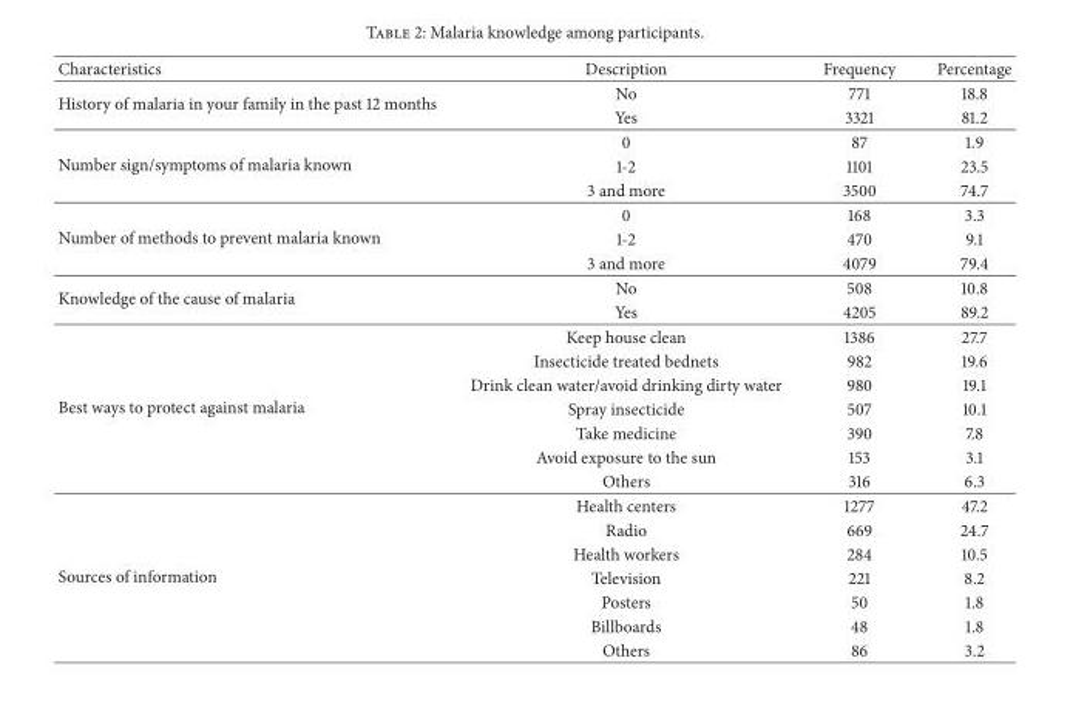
<table><thead><tr><td>Characteristics</td><td>Description</td><td>Frequency</td><td>Percentage</td></tr></thead><tbody><tr><td rowspan="2">History of malaria in your family in the past 12 months</td><td>No</td><td>771</td><td>18.8</td></tr><tr><td>Yes</td><td>3321</td><td>81.2</td></tr><tr><td rowspan="3">Number sign/symptoms of malaria known</td><td>0</td><td>87</td><td>1.9</td></tr><tr><td>1-2</td><td>1101</td><td>23.5</td></tr><tr><td>3 and more</td><td>3500</td><td>74.7</td></tr><tr><td rowspan="3">Number of methods to prevent malaria known</td><td>0</td><td>168</td><td>3.3</td></tr><tr><td>1-2</td><td>470</td><td>9.1</td></tr><tr><td>3 and more</td><td>4079</td><td>79.4</td></tr><tr><td rowspan="2">Knowledge of the cause of malaria</td><td>No</td><td>508</td><td>10.8</td></tr><tr><td>Yes</td><td>4205</td><td>89.2</td></tr><tr><td rowspan="7">Best ways to protect against malaria</td><td>Keep house clean</td><td>1386</td><td>27.7</td></tr><tr><td>Insecticide treated bednets</td><td>982</td><td>19.6</td></tr><tr><td>Drink clean water/avoid drinking dirty water</td><td>980</td><td>19.1</td></tr><tr><td>Spray insecticide</td><td>507</td><td>10.1</td></tr><tr><td>Take medicine</td><td>390</td><td>7.8</td></tr><tr><td>Avoid exposure to the sun</td><td>153</td><td>3.1</td></tr><tr><td>Others</td><td>316</td><td>6.3</td></tr><tr><td rowspan="7">Sources of information</td><td>Health centers</td><td>1277</td><td>47.2</td></tr><tr><td>Radio</td><td>669</td><td>24.7</td></tr><tr><td>Health workers</td><td>284</td><td>10.5</td></tr><tr><td>Television</td><td>221</td><td>8.2</td></tr><tr><td>Posters</td><td>50</td><td>1.8</td></tr><tr><td>Billboards</td><td>48</td><td>1.8</td></tr><tr><td>Others</td><td>86</td><td>3.2</td></tr></tbody></table>